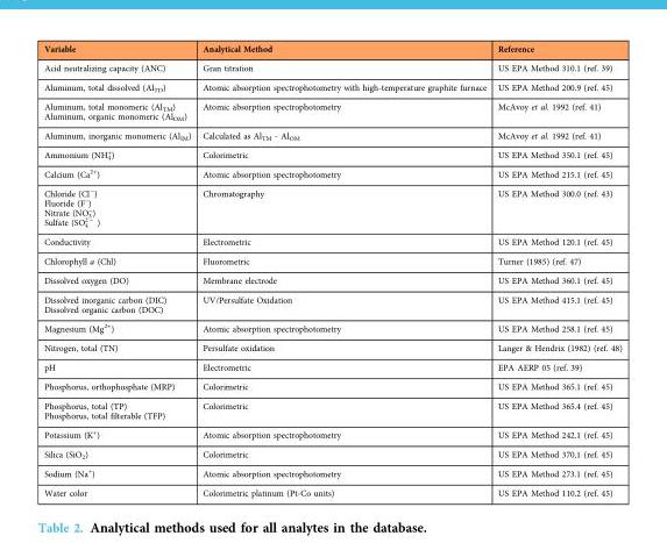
<table><thead><tr><td>Variable</td><td>Analytical Method</td><td>Reference</td></tr></thead><tbody><tr><td>Acid neutralizing capacity (ANC)</td><td>Gran titration</td><td>US EPA Method 310.1 (ref. 39)</td></tr><tr><td>Aluminum, total dissolved (Al<sub>TD</sub>)</td><td>Atomic absorption spectrophotometry with high-temperature graphite furnace</td><td>US EPA Method 200.9 (ref. 45)</td></tr><tr><td>Aluminum, total monomeric (Al<sub>TM</sub>) Aluminum, organic monomeric (Al<sub>OM</sub>)</td><td>Atomic absorption spectrophotometry</td><td>McAvoy et al. 1992 (ref. 41)</td></tr><tr><td>Aluminum, inorganic monomeric (Al<sub>IM</sub>)</td><td>Calculated as Al<sub>TM</sub> - Al<sub>OM</sub></td><td>McAvoy et al. 1992 (ref. 41)</td></tr><tr><td>Ammonium (NH<sub>4</sub> <sup>+</sup>)</td><td>Colorimetric</td><td>US EPA Method 350.1 (ref. 45)</td></tr><tr><td>Calcium (Ca<sup>2+</sup>)</td><td>Atomic absorption spectrophotometry</td><td>US EPA Method 215.1 (ref. 45)</td></tr><tr><td>Chloride (Cl <sup>−</sup>) Fluoride (F<sup>−</sup>) Nitrate (NO<sub>3</sub> <sup>−</sup>) Sulfate (SO<sub>4</sub> <sup>2 −</sup> )</td><td>Chromatography</td><td>US EPA Method 300.0 (ref. 43)</td></tr><tr><td>Conductivity</td><td>Electrometric</td><td>US EPA Method 120.1 (ref. 45)</td></tr><tr><td>Chlorophyll a (Chl)</td><td>Fluorometric</td><td>Turner (1985) (ref. 47)</td></tr><tr><td>Dissolved oxygen (DO)</td><td>Membrane electrode</td><td>US EPA Method 360.1 (ref. 45)</td></tr><tr><td>Dissolved inorganic carbon (DIC) Dissolved organic carbon (DOC)</td><td>UV/Persulfate Oxidation</td><td>US EPA Method 415.1 (ref. 45)</td></tr><tr><td>Magnesium (Mg<sup>2+</sup>)</td><td>Atomic absorption spectrophotometry</td><td>US EPA Method 258.1 (ref. 45)</td></tr><tr><td>Nitrogen, total (TN)</td><td>Persulfate oxidation</td><td>Langer &amp; Hendrix (1982) (ref. 48)</td></tr><tr><td>pH</td><td>Electrometric</td><td>EPA AERP 05 (ref. 39)</td></tr><tr><td>Phosphorus, orthophosphate (MRP)</td><td>Colorimetric</td><td>US EPA Method 365.1 (ref. 45)</td></tr><tr><td>Phosphorus, total (TP) Phosphorus, total filterable (TFP)</td><td>Colorimetric</td><td>US EPA Method 365.4 (ref. 45)</td></tr><tr><td>Potassium (K<sup>+</sup>)</td><td>Atomic absorption spectrophotometry</td><td>US EPA Method 242.1 (ref. 45)</td></tr><tr><td>Silica (SiO<sub>2</sub>)</td><td>Colorimetric</td><td>US EPA Method 370.1 (ref. 45)</td></tr><tr><td>Sodium (Na<sup>+</sup>)</td><td>Atomic absorption spectrophotometry</td><td>US EPA Method 273.1 (ref. 45)</td></tr><tr><td>Water color</td><td>Colorimetric platinum (Pt-Co units)</td><td>US EPA Method 110.2 (ref. 45)</td></tr></tbody></table>